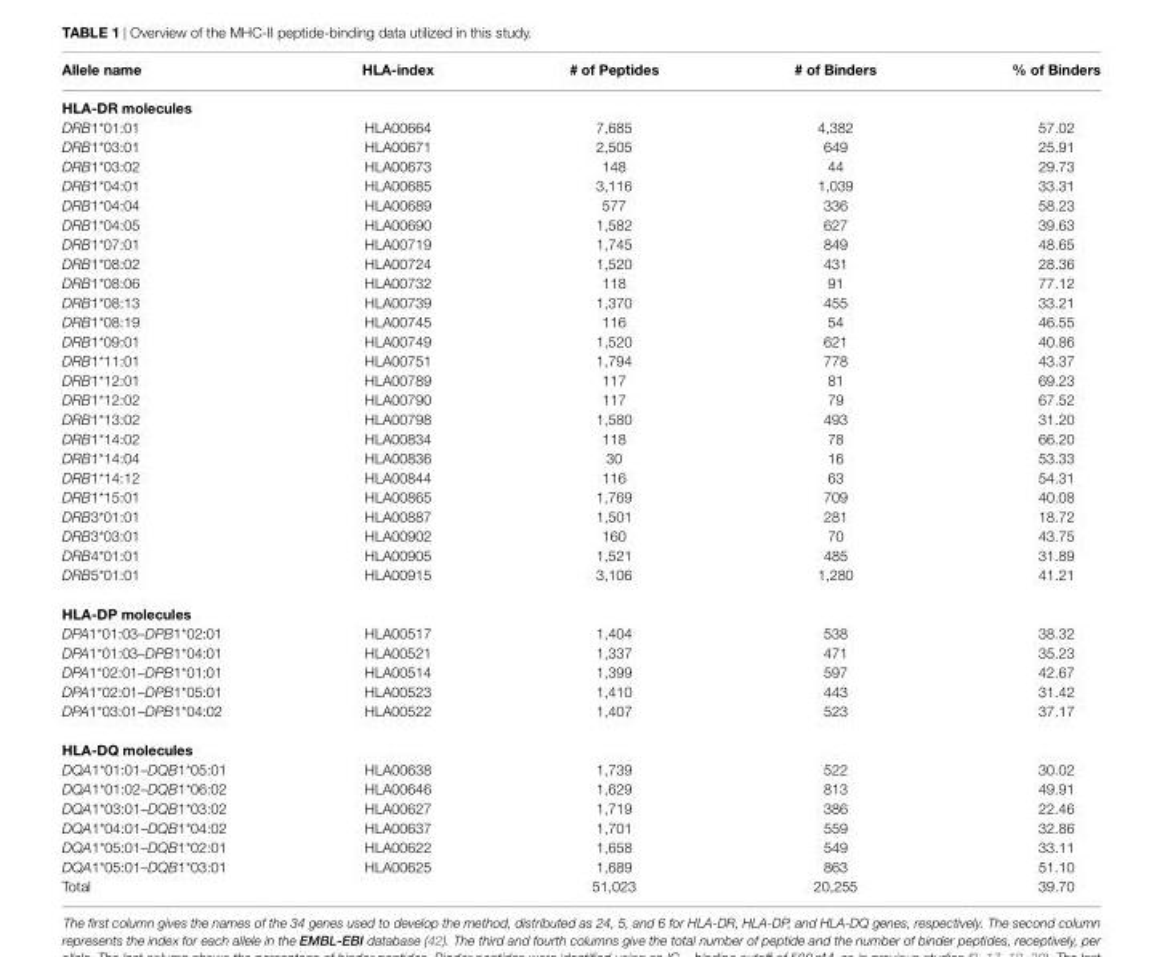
<table><thead><tr><td>Allele name</td><td>HLA-index</td><td># of Peptides</td><td># of Binders</td><td>% of Binders</td></tr></thead><tbody><tr><td colspan="5">HLA-DR molecules</td></tr><tr><td>DRB1*01:01</td><td>HLA00664</td><td>7,685</td><td>4,382</td><td>57.02</td></tr><tr><td>DRB1*03:01</td><td>HLA00671</td><td>2,505</td><td>649</td><td>25.91</td></tr><tr><td>DRB1*03:02</td><td>HLA00673</td><td>148</td><td>44</td><td>29.73</td></tr><tr><td>DRB1*04:01</td><td>HLA00685</td><td>3,116</td><td>1,039</td><td>33.31</td></tr><tr><td>DRB1*04:04</td><td>HLA00689</td><td>577</td><td>336</td><td>58.23</td></tr><tr><td>DRB1*04:05</td><td>HLA00690</td><td>1,582</td><td>627</td><td>39.63</td></tr><tr><td>DRB1*07:01</td><td>HLA00719</td><td>1,745</td><td>849</td><td>48.65</td></tr><tr><td>DRB1*08:02</td><td>HLA00724</td><td>1,520</td><td>431</td><td>28.36</td></tr><tr><td>DRB1*08:06</td><td>HLA00732</td><td>118</td><td>91</td><td>77.12</td></tr><tr><td>DRB1*08:13</td><td>HLA00739</td><td>1,370</td><td>455</td><td>33.21</td></tr><tr><td>DRB1*08:19</td><td>HLA00745</td><td>116</td><td>54</td><td>46.55</td></tr><tr><td>DRB1*09:01</td><td>HLA00749</td><td>1,520</td><td>621</td><td>40.86</td></tr><tr><td>DRB1*11:01</td><td>HLA00751</td><td>1,794</td><td>778</td><td>43.37</td></tr><tr><td>DRB1*12:01</td><td>HLA00789</td><td>117</td><td>81</td><td>69.23</td></tr><tr><td>DRB1*12:02</td><td>HLA00790</td><td>117</td><td>79</td><td>67.52</td></tr><tr><td>DRB1*13:02</td><td>HLA00798</td><td>1,580</td><td>493</td><td>31.20</td></tr><tr><td>DRB1*14:02</td><td>HLA00834</td><td>118</td><td>78</td><td>66.20</td></tr><tr><td>DRB1*14:04</td><td>HLA00836</td><td>30</td><td>16</td><td>53.33</td></tr><tr><td>DRB1*14:12</td><td>HLA00844</td><td>116</td><td>63</td><td>54.31</td></tr><tr><td>DRB1*15:01</td><td>HLA00865</td><td>1,769</td><td>709</td><td>40.08</td></tr><tr><td>DRB3*01:01</td><td>HLA00887</td><td>1,501</td><td>281</td><td>18.72</td></tr><tr><td>DRB3*03:01</td><td>HLA00902</td><td>160</td><td>70</td><td>43.75</td></tr><tr><td>DRB4*01:01</td><td>HLA00905</td><td>1,521</td><td>485</td><td>31.89</td></tr><tr><td>DRB5*01:01</td><td>HLA00915</td><td>3,106</td><td>1,280</td><td>41.21</td></tr><tr><td colspan="5">HLA-DP molecules</td></tr><tr><td>DPA1*01:03–DPB1*02:01</td><td>HLA00517</td><td>1,404</td><td>538</td><td>38.32</td></tr><tr><td>DPA1*01:03–DPB1*04:01</td><td>HLA00521</td><td>1,337</td><td>471</td><td>35.23</td></tr><tr><td>DPA1*02:01–DPB1*01:01</td><td>HLA00514</td><td>1,399</td><td>597</td><td>42.67</td></tr><tr><td>DPA1*02:01–DPB1*05:01</td><td>HLA00523</td><td>1,410</td><td>443</td><td>31.42</td></tr><tr><td>DPA1*03:01–DPB1*04:02</td><td>HLA00522</td><td>1,407</td><td>523</td><td>37.17</td></tr><tr><td colspan="5">HLA-DQ molecules</td></tr><tr><td>DQA1*01:01–DQB1*05:01</td><td>HLA00638</td><td>1,739</td><td>522</td><td>30.02</td></tr><tr><td>DQA1*01:02–DQB1*06:02</td><td>HLA00646</td><td>1,629</td><td>813</td><td>49.91</td></tr><tr><td>DQA1*03:01–DQB1*03:02</td><td>HLA00627</td><td>1,719</td><td>386</td><td>22.46</td></tr><tr><td>DQA1*04:01–DQB1*04:02</td><td>HLA00637</td><td>1,701</td><td>559</td><td>32.86</td></tr><tr><td>DQA1*05:01–DQB1*02:01</td><td>HLA00622</td><td>1,658</td><td>549</td><td>33.11</td></tr><tr><td>DQA1*05:01–DQB1*03:01</td><td>HLA00625</td><td>1,689</td><td>863</td><td>51.10</td></tr><tr><td>Total</td><td></td><td>51,023</td><td>20,255</td><td>39.70</td></tr></tbody></table>